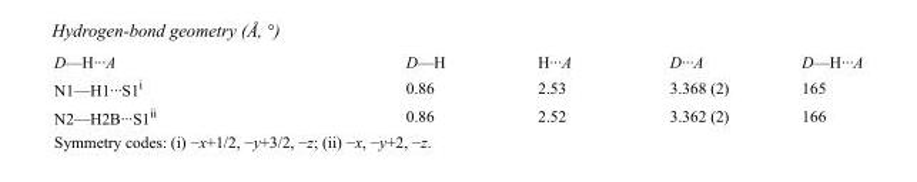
<table><tbody><tr><td>D—H···A</td><td>D—H</td><td>H···A</td><td>D···A</td><td>D—H···A</td></tr><tr><td>N1—H1···S1<sup>i</sup></td><td>0.86</td><td>2.53</td><td>3.368 (2)</td><td>165</td></tr><tr><td>N2—H2B···S1<sup>ii</sup></td><td>0.86</td><td>2.52</td><td>3.362 (2)</td><td>166</td></tr></tbody></table>